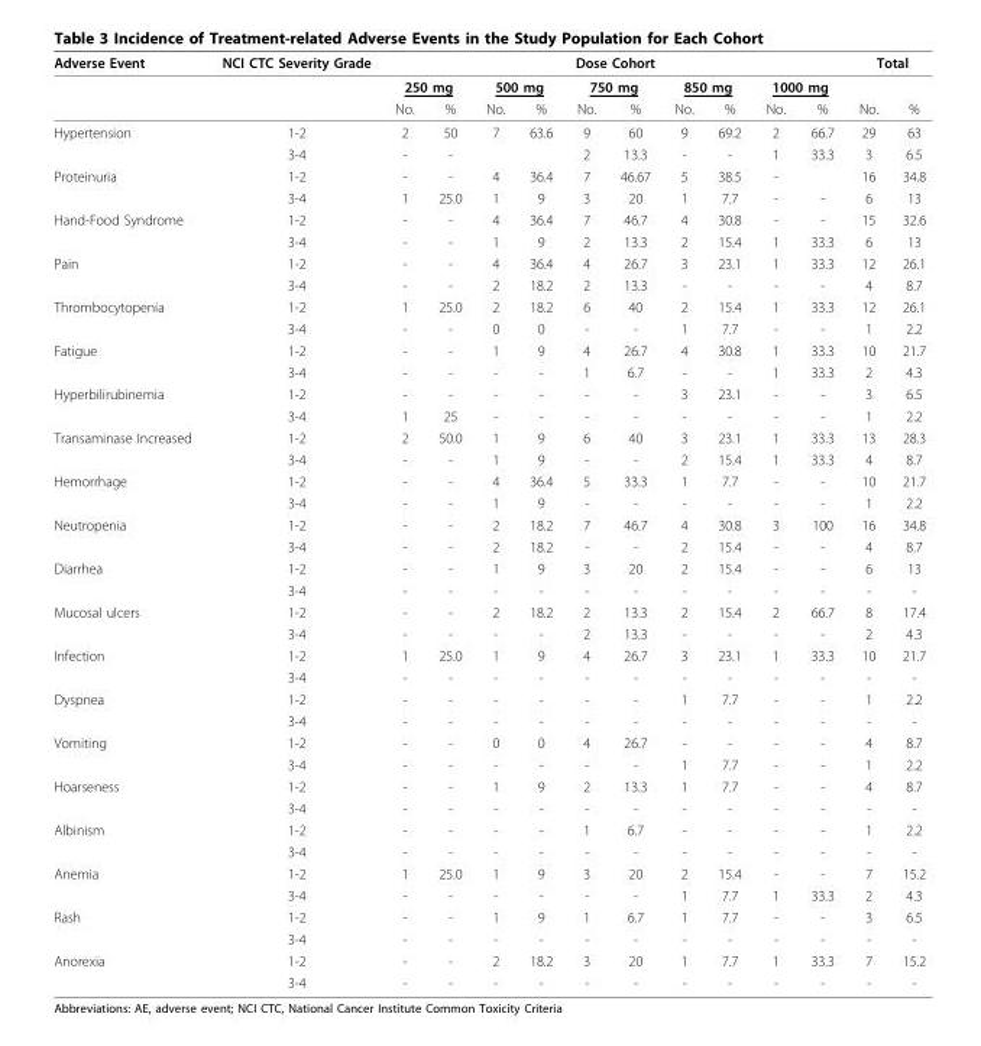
<table><thead><tr><td rowspan="3">Adverse Event</td><td rowspan="3">NCI CTC Severity Grade</td><td colspan="10">Dose Cohort</td><td colspan="2">Total</td></tr><tr><td colspan="2">250 mg</td><td colspan="2">500 mg</td><td colspan="2">750 mg</td><td colspan="2">850 mg</td><td colspan="2">1000 mg</td><td rowspan="2">No.</td><td rowspan="2">%</td></tr><tr><td>No.</td><td>%</td><td>No.</td><td>%</td><td>No.</td><td>%</td><td>No.</td><td>%</td><td>No.</td><td>%</td></tr></thead><tbody><tr><td rowspan="2">Hypertension</td><td>1-2</td><td>2</td><td>50</td><td>7</td><td>63.6</td><td>9</td><td>60</td><td>9</td><td>69.2</td><td>2</td><td>66.7</td><td>29</td><td>63</td></tr><tr><td>3-4</td><td>-</td><td>-</td><td></td><td></td><td>2</td><td>13.3</td><td>-</td><td>-</td><td>1</td><td>33.3</td><td>3</td><td>6.5</td></tr><tr><td rowspan="2">Proteinuria</td><td>1-2</td><td>-</td><td>-</td><td>4</td><td>36.4</td><td>7</td><td>46.67</td><td>5</td><td>38.5</td><td>-</td><td></td><td>16</td><td>34.8</td></tr><tr><td>3-4</td><td>1</td><td>25.0</td><td>1</td><td>9</td><td>3</td><td>20</td><td>1</td><td>7.7</td><td>-</td><td>-</td><td>6</td><td>13</td></tr><tr><td rowspan="2">Hand-Food Syndrome</td><td>1-2</td><td>-</td><td>-</td><td>4</td><td>36.4</td><td>7</td><td>46.7</td><td>4</td><td>30.8</td><td>-</td><td>-</td><td>15</td><td>32.6</td></tr><tr><td>3-4</td><td>-</td><td>-</td><td>1</td><td>9</td><td>2</td><td>13.3</td><td>2</td><td>15.4</td><td>1</td><td>33.3</td><td>6</td><td>13</td></tr><tr><td rowspan="2">Pain</td><td>1-2</td><td>-</td><td>-</td><td>4</td><td>36.4</td><td>4</td><td>26.7</td><td>3</td><td>23.1</td><td>1</td><td>33.3</td><td>12</td><td>26.1</td></tr><tr><td>3-4</td><td>-</td><td>-</td><td>2</td><td>18.2</td><td>2</td><td>13.3</td><td>-</td><td>-</td><td>-</td><td>-</td><td>4</td><td>8.7</td></tr><tr><td rowspan="2">Thrombocytopenia</td><td>1-2</td><td>1</td><td>25.0</td><td>2</td><td>18.2</td><td>6</td><td>40</td><td>2</td><td>15.4</td><td>1</td><td>33.3</td><td>12</td><td>26.1</td></tr><tr><td>3-4</td><td>-</td><td>-</td><td>0</td><td>0</td><td>-</td><td>-</td><td>1</td><td>7.7</td><td>-</td><td>-</td><td>1</td><td>2.2</td></tr><tr><td rowspan="2">Fatigue</td><td>1-2</td><td>-</td><td>-</td><td>1</td><td>9</td><td>4</td><td>26.7</td><td>4</td><td>30.8</td><td>1</td><td>33.3</td><td>10</td><td>21.7</td></tr><tr><td>3-4</td><td>-</td><td>-</td><td>-</td><td>-</td><td>1</td><td>6.7</td><td>-</td><td>-</td><td>1</td><td>33.3</td><td>2</td><td>4.3</td></tr><tr><td rowspan="2">Hyperbilirubinemia</td><td>1-2</td><td>-</td><td>-</td><td>-</td><td>-</td><td>-</td><td>-</td><td>3</td><td>23.1</td><td>-</td><td>-</td><td>3</td><td>6.5</td></tr><tr><td>3-4</td><td>1</td><td>25</td><td>-</td><td>-</td><td>-</td><td>-</td><td>-</td><td>-</td><td>-</td><td>-</td><td>1</td><td>2.2</td></tr><tr><td rowspan="2">Transaminase Increased</td><td>1-2</td><td>2</td><td>50.0</td><td>1</td><td>9</td><td>6</td><td>40</td><td>3</td><td>23.1</td><td>1</td><td>33.3</td><td>13</td><td>28.3</td></tr><tr><td>3-4</td><td>-</td><td>-</td><td>1</td><td>9</td><td>-</td><td>-</td><td>2</td><td>15.4</td><td>1</td><td>33.3</td><td>4</td><td>8.7</td></tr><tr><td rowspan="2">Hemorrhage</td><td>1-2</td><td>-</td><td>-</td><td>4</td><td>36.4</td><td>5</td><td>33.3</td><td>1</td><td>7.7</td><td>-</td><td>-</td><td>10</td><td>21.7</td></tr><tr><td>3-4</td><td>-</td><td>-</td><td>1</td><td>9</td><td>-</td><td>-</td><td>-</td><td>-</td><td>-</td><td>-</td><td>1</td><td>2.2</td></tr><tr><td rowspan="2">Neutropenia</td><td>1-2</td><td>-</td><td>-</td><td>2</td><td>18.2</td><td>7</td><td>46.7</td><td>4</td><td>30.8</td><td>3</td><td>100</td><td>16</td><td>34.8</td></tr><tr><td>3-4</td><td>-</td><td>-</td><td>2</td><td>18.2</td><td>-</td><td>-</td><td>2</td><td>15.4</td><td>-</td><td>-</td><td>4</td><td>8.7</td></tr><tr><td rowspan="2">Diarrhea</td><td>1-2</td><td>-</td><td>-</td><td>1</td><td>9</td><td>3</td><td>20</td><td>2</td><td>15.4</td><td>-</td><td>-</td><td>6</td><td>13</td></tr><tr><td>3-4</td><td>-</td><td>-</td><td>-</td><td>-</td><td>-</td><td>-</td><td>-</td><td>-</td><td>-</td><td>-</td><td>-</td><td>-</td></tr><tr><td rowspan="2">Mucosal ulcers</td><td>1-2</td><td>-</td><td>-</td><td>2</td><td>18.2</td><td>2</td><td>13.3</td><td>2</td><td>15.4</td><td>2</td><td>66.7</td><td>8</td><td>17.4</td></tr><tr><td>3-4</td><td>-</td><td>-</td><td>-</td><td>-</td><td>2</td><td>13.3</td><td>-</td><td>-</td><td>-</td><td>-</td><td>2</td><td>4.3</td></tr><tr><td rowspan="2">Infection</td><td>1-2</td><td>1</td><td>25.0</td><td>1</td><td>9</td><td>4</td><td>26.7</td><td>3</td><td>23.1</td><td>1</td><td>33.3</td><td>10</td><td>21.7</td></tr><tr><td>3-4</td><td>-</td><td>-</td><td>-</td><td>-</td><td>-</td><td>-</td><td>-</td><td>-</td><td>-</td><td>-</td><td>-</td><td>-</td></tr><tr><td rowspan="2">Dyspnea</td><td>1-2</td><td>-</td><td>-</td><td>-</td><td>-</td><td>-</td><td>-</td><td>1</td><td>7.7</td><td>-</td><td>-</td><td>1</td><td>2.2</td></tr><tr><td>3-4</td><td>-</td><td>-</td><td>-</td><td>-</td><td>-</td><td>-</td><td>-</td><td>-</td><td>-</td><td>-</td><td>-</td><td>-</td></tr><tr><td rowspan="2">Vomiting</td><td>1-2</td><td>-</td><td>-</td><td>0</td><td>0</td><td>4</td><td>26.7</td><td>-</td><td>-</td><td>-</td><td>-</td><td>4</td><td>8.7</td></tr><tr><td>3-4</td><td>-</td><td>-</td><td>-</td><td>-</td><td>-</td><td>-</td><td>1</td><td>7.7</td><td>-</td><td>-</td><td>1</td><td>2.2</td></tr><tr><td rowspan="2">Hoarseness</td><td>1-2</td><td>-</td><td>-</td><td>1</td><td>9</td><td>2</td><td>13.3</td><td>1</td><td>7.7</td><td>-</td><td>-</td><td>4</td><td>8.7</td></tr><tr><td>3-4</td><td>-</td><td>-</td><td>-</td><td>-</td><td>-</td><td>-</td><td>-</td><td>-</td><td>-</td><td>-</td><td>-</td><td>-</td></tr><tr><td rowspan="2">Albinism</td><td>1-2</td><td>-</td><td>-</td><td>-</td><td>-</td><td>1</td><td>6.7</td><td>-</td><td>-</td><td>-</td><td>-</td><td>1</td><td>2.2</td></tr><tr><td>3-4</td><td>-</td><td>-</td><td>-</td><td>-</td><td>-</td><td>-</td><td>-</td><td>-</td><td>-</td><td>-</td><td>-</td><td>-</td></tr><tr><td rowspan="2">Anemia</td><td>1-2</td><td>1</td><td>25.0</td><td>1</td><td>9</td><td>3</td><td>20</td><td>2</td><td>15.4</td><td>-</td><td>-</td><td>7</td><td>15.2</td></tr><tr><td>3-4</td><td>-</td><td>-</td><td>-</td><td>-</td><td>-</td><td>-</td><td>1</td><td>7.7</td><td>1</td><td>33.3</td><td>2</td><td>4.3</td></tr><tr><td rowspan="2">Rash</td><td>1-2</td><td>-</td><td>-</td><td>1</td><td>9</td><td>1</td><td>6.7</td><td>1</td><td>7.7</td><td>-</td><td>-</td><td>3</td><td>6.5</td></tr><tr><td>3-4</td><td>-</td><td>-</td><td>-</td><td>-</td><td>-</td><td>-</td><td>-</td><td>-</td><td>-</td><td>-</td><td>-</td><td>-</td></tr><tr><td rowspan="2">Anorexia</td><td>1-2</td><td>-</td><td>-</td><td>2</td><td>18.2</td><td>3</td><td>20</td><td>1</td><td>7.7</td><td>1</td><td>33.3</td><td>7</td><td>15.2</td></tr><tr><td>3-4</td><td>-</td><td>-</td><td>-</td><td>-</td><td>-</td><td>-</td><td>-</td><td>-</td><td>-</td><td>-</td><td>-</td><td>-</td></tr></tbody></table>